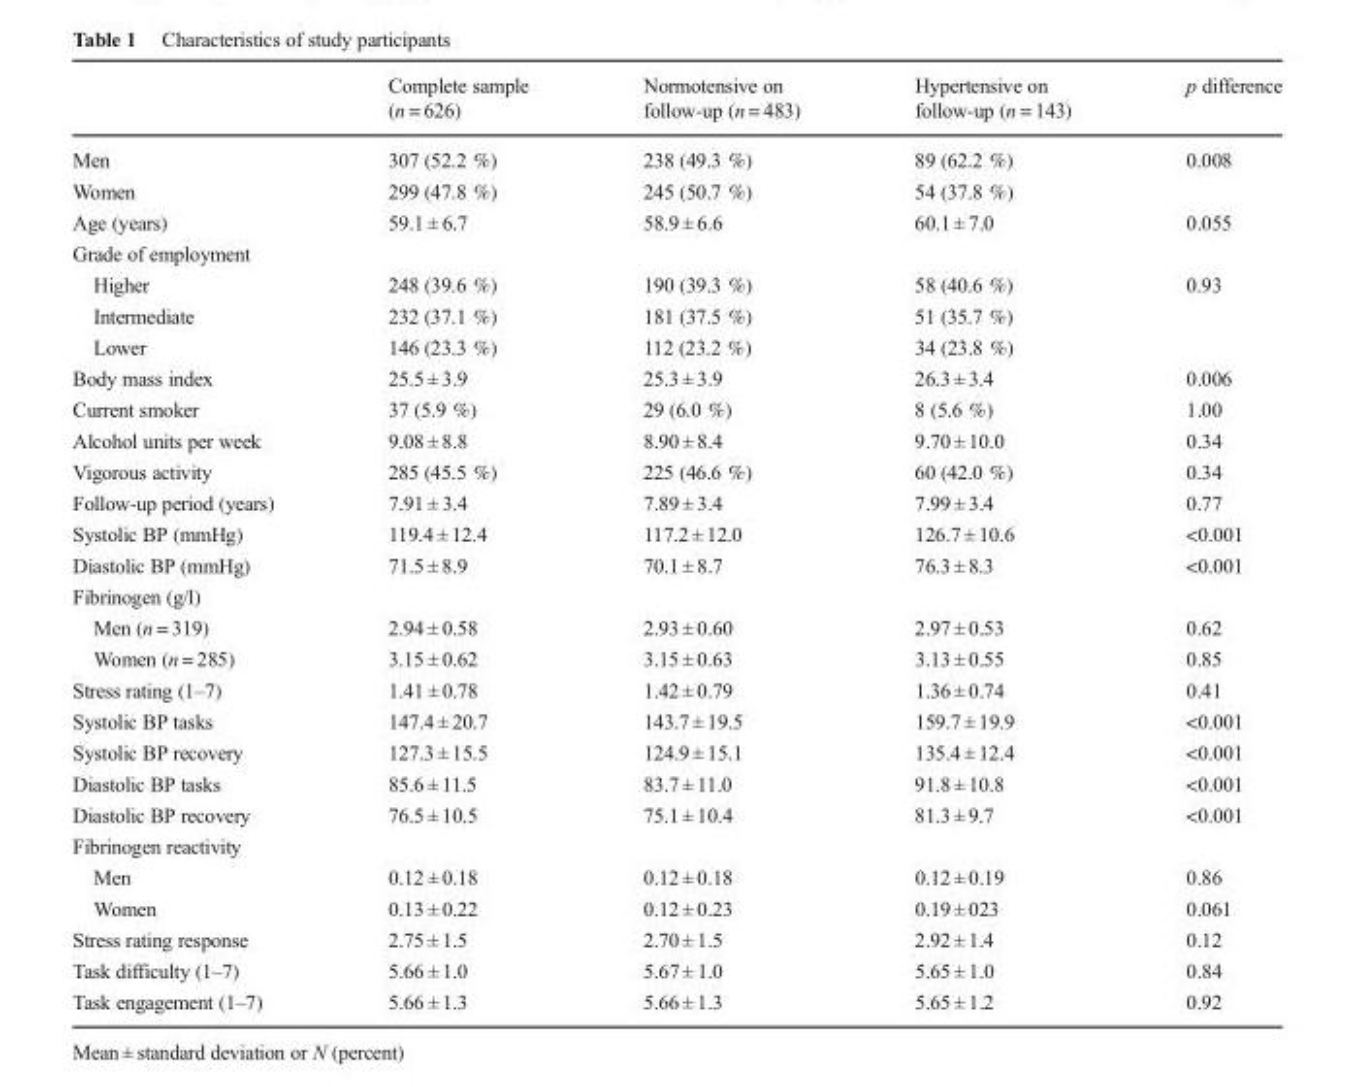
<table><thead><tr><td></td><td>Complete sample (n = 626)</td><td>Normotensive on follow-up (n = 483)</td><td>Hypertensive on follow-up (n = 143)</td><td>p difference</td></tr></thead><tbody><tr><td>Men</td><td>307 (52.2 %)</td><td>238 (49.3 %)</td><td>89 (62.2 %)</td><td>0.008</td></tr><tr><td>Women</td><td>299 (47.8 %)</td><td>245 (50.7 %)</td><td>54 (37.8 %)</td><td></td></tr><tr><td>Age (years)</td><td>59.1 ± 6.7</td><td>58.9 ± 6.6</td><td>60.1 ± 7.0</td><td>0.055</td></tr><tr><td colspan="5">Grade of employment</td></tr><tr><td>Higher</td><td>248 (39.6 %)</td><td>190 (39.3 %)</td><td>58 (40.6 %)</td><td>0.93</td></tr><tr><td>Intermediate</td><td>232 (37.1 %)</td><td>181 (37.5 %)</td><td>51 (35.7 %)</td><td></td></tr><tr><td>Lower</td><td>146 (23.3 %)</td><td>112 (23.2 %)</td><td>34 (23.8 %)</td><td></td></tr><tr><td>Body mass index</td><td>25.5 ± 3.9</td><td>25.3 ± 3.9</td><td>26.3 ± 3.4</td><td>0.006</td></tr><tr><td>Current smoker</td><td>37 (5.9 %)</td><td>29 (6.0 %)</td><td>8 (5.6 %)</td><td>1.00</td></tr><tr><td>Alcohol units per week</td><td>9.08 ± 8.8</td><td>8.90 ± 8.4</td><td>9.70 ± 10.0</td><td>0.34</td></tr><tr><td>Vigorous activity</td><td>285 (45.5 %)</td><td>225 (46.6 %)</td><td>60 (42.0 %)</td><td>0.34</td></tr><tr><td>Follow-up period (years)</td><td>7.91 ± 3.4</td><td>7.89 ± 3.4</td><td>7.99 ± 3.4</td><td>0.77</td></tr><tr><td>Systolic BP (mmHg)</td><td>119.4 ± 12.4</td><td>117.2 ± 12.0</td><td>126.7 ± 10.6</td><td>&lt;0.001</td></tr><tr><td>Diastolic BP (mmHg)</td><td>71.5 ± 8.9</td><td>70.1 ± 8.7</td><td>76.3 ± 8.3</td><td>&lt;0.001</td></tr><tr><td colspan="5">Fibrinogen (g/l)</td></tr><tr><td>Men (n = 319)</td><td>2.94 ± 0.58</td><td>2.93 ± 0.60</td><td>2.97 ± 0.53</td><td>0.62</td></tr><tr><td>Women (n = 285)</td><td>3.15 ± 0.62</td><td>3.15 ± 0.63</td><td>3.13 ± 0.55</td><td>0.85</td></tr><tr><td>Stress rating (1–7)</td><td>1.41 ± 0.78</td><td>1.42 ± 0.79</td><td>1.36 ± 0.74</td><td>0.41</td></tr><tr><td>Systolic BP tasks</td><td>147.4 ± 20.7</td><td>143.7 ± 19.5</td><td>159.7 ± 19.9</td><td>&lt;0.001</td></tr><tr><td>Systolic BP recovery</td><td>127.3 ± 15.5</td><td>124.9 ± 15.1</td><td>135.4 ± 12.4</td><td>&lt;0.001</td></tr><tr><td>Diastolic BP tasks</td><td>85.6 ± 11.5</td><td>83.7 ± 11.0</td><td>91.8 ± 10.8</td><td>&lt;0.001</td></tr><tr><td>Diastolic BP recovery</td><td>76.5 ± 10.5</td><td>75.1 ± 10.4</td><td>81.3 ± 9.7</td><td>&lt;0.001</td></tr><tr><td colspan="5">Fibrinogen reactivity</td></tr><tr><td>Men</td><td>0.12 ± 0.18</td><td>0.12 ± 0.18</td><td>0.12 ± 0.19</td><td>0.86</td></tr><tr><td>Women</td><td>0.13 ± 0.22</td><td>0.12 ± 0.23</td><td>0.19 ± 023</td><td>0.061</td></tr><tr><td>Stress rating response</td><td>2.75 ± 1.5</td><td>2.70 ± 1.5</td><td>2.92 ± 1.4</td><td>0.12</td></tr><tr><td>Task difficulty (1–7)</td><td>5.66 ± 1.0</td><td>5.67 ± 1.0</td><td>5.65 ± 1.0</td><td>0.84</td></tr><tr><td>Task engagement (1–7)</td><td>5.66 ± 1.3</td><td>5.66 ± 1.3</td><td>5.65 ± 1.2</td><td>0.92</td></tr></tbody></table>